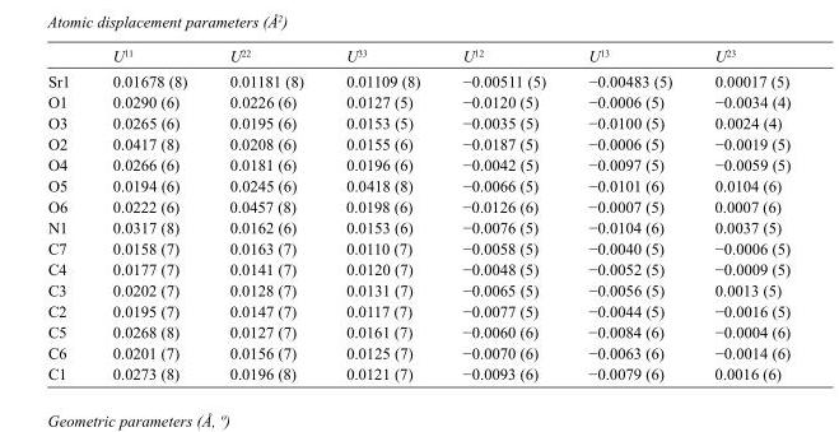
<table><thead><tr><td></td><td>U<sup>11</sup></td><td>U<sup>22</sup></td><td>U<sup>33</sup></td><td>U<sup>12</sup></td><td>U<sup>13</sup></td><td>U<sup>23</sup></td></tr></thead><tbody><tr><td>Sr1</td><td>0.01678 (8)</td><td>0.01181 (8)</td><td>0.01109 (8)</td><td>−0.00511 (5)</td><td>−0.00483 (5)</td><td>0.00017 (5)</td></tr><tr><td>O1</td><td>0.0290 (6)</td><td>0.0226 (6)</td><td>0.0127 (5)</td><td>−0.0120 (5)</td><td>−0.0006 (5)</td><td>−0.0034 (4)</td></tr><tr><td>O3</td><td>0.0265 (6)</td><td>0.0195 (6)</td><td>0.0153 (5)</td><td>−0.0035 (5)</td><td>−0.0100 (5)</td><td>0.0024 (4)</td></tr><tr><td>O2</td><td>0.0417 (8)</td><td>0.0208 (6)</td><td>0.0155 (6)</td><td>−0.0187 (5)</td><td>−0.0006 (5)</td><td>−0.0019 (5)</td></tr><tr><td>O4</td><td>0.0266 (6)</td><td>0.0181 (6)</td><td>0.0196 (6)</td><td>−0.0042 (5)</td><td>−0.0097 (5)</td><td>−0.0059 (5)</td></tr><tr><td>O5</td><td>0.0194 (6)</td><td>0.0245 (6)</td><td>0.0418 (8)</td><td>−0.0066 (5)</td><td>−0.0101 (6)</td><td>0.0104 (6)</td></tr><tr><td>O6</td><td>0.0222 (6)</td><td>0.0457 (8)</td><td>0.0198 (6)</td><td>−0.0126 (6)</td><td>−0.0007 (5)</td><td>0.0007 (6)</td></tr><tr><td>N1</td><td>0.0317 (8)</td><td>0.0162 (6)</td><td>0.0153 (6)</td><td>−0.0076 (5)</td><td>−0.0104 (6)</td><td>0.0037 (5)</td></tr><tr><td>C7</td><td>0.0158 (7)</td><td>0.0163 (7)</td><td>0.0110 (7)</td><td>−0.0058 (5)</td><td>−0.0040 (5)</td><td>−0.0006 (5)</td></tr><tr><td>C4</td><td>0.0177 (7)</td><td>0.0141 (7)</td><td>0.0120 (7)</td><td>−0.0048 (5)</td><td>−0.0052 (5)</td><td>−0.0009 (5)</td></tr><tr><td>C3</td><td>0.0202 (7)</td><td>0.0128 (7)</td><td>0.0131 (7)</td><td>−0.0065 (5)</td><td>−0.0056 (5)</td><td>0.0013 (5)</td></tr><tr><td>C2</td><td>0.0195 (7)</td><td>0.0147 (7)</td><td>0.0117 (7)</td><td>−0.0077 (5)</td><td>−0.0044 (5)</td><td>−0.0016 (5)</td></tr><tr><td>C5</td><td>0.0268 (8)</td><td>0.0127 (7)</td><td>0.0161 (7)</td><td>−0.0060 (6)</td><td>−0.0084 (6)</td><td>−0.0004 (6)</td></tr><tr><td>C6</td><td>0.0201 (7)</td><td>0.0156 (7)</td><td>0.0125 (7)</td><td>−0.0070 (6)</td><td>−0.0063 (6)</td><td>−0.0014 (6)</td></tr><tr><td>C1</td><td>0.0273 (8)</td><td>0.0196 (8)</td><td>0.0121 (7)</td><td>−0.0093 (6)</td><td>−0.0079 (6)</td><td>0.0016 (6)</td></tr></tbody></table>